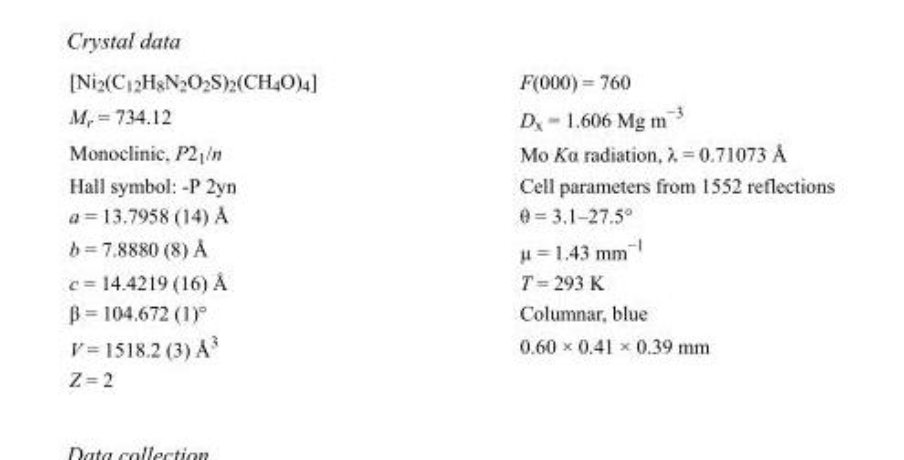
<table><tbody><tr><td>[Ni<sub>2</sub>(C<sub>12</sub>H<sub>8</sub>N<sub>2</sub>O<sub>2</sub>S)<sub>2</sub>(CH<sub>4</sub>O)<sub>4</sub>]</td><td>F(000) = 760</td></tr><tr><td>M<sub>r</sub> = 734.12</td><td>D<sub>x</sub> = 1.606 Mg m<sup>−3</sup></td></tr><tr><td>Monoclinic, P2<sub>1</sub>/n</td><td>Mo Kα radiation, λ = 0.71073 Å</td></tr><tr><td>Hall symbol: -P 2yn</td><td>Cell parameters from 1552 reflections</td></tr><tr><td>a = 13.7958 (14) Å</td><td>θ = 3.1–27.5°</td></tr><tr><td>b = 7.8880 (8) Å</td><td>µ = 1.43 mm<sup>−1</sup></td></tr><tr><td>c = 14.4219 (16) Å</td><td>T = 293 K</td></tr><tr><td>β = 104.672 (1)°</td><td>Columnar, blue</td></tr><tr><td>V = 1518.2 (3) Å<sup>3</sup></td><td>0.60 × 0.41 × 0.39 mm</td></tr><tr><td>Z = 2</td><td></td></tr></tbody></table>